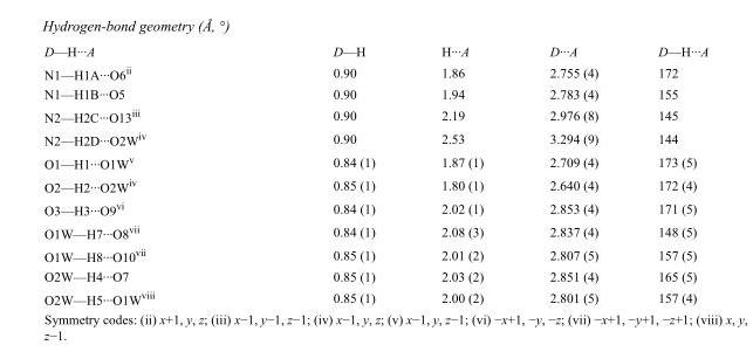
<table><tbody><tr><td>D—H···A</td><td>D—H</td><td>H···A</td><td>D···A</td><td>D—H···A</td></tr><tr><td>N1—H1A···O6<sup>ii</sup></td><td>0.90</td><td>1.86</td><td>2.755 (4)</td><td>172</td></tr><tr><td>N1—H1B···O5</td><td>0.90</td><td>1.94</td><td>2.783 (4)</td><td>155</td></tr><tr><td>N2—H2C···O13<sup>iii</sup></td><td>0.90</td><td>2.19</td><td>2.976 (8)</td><td>145</td></tr><tr><td>N2—H2D···O2W<sup>iv</sup></td><td>0.90</td><td>2.53</td><td>3.294 (9)</td><td>144</td></tr><tr><td>O1—H1···O1W<sup>v</sup></td><td>0.84 (1)</td><td>1.87 (1)</td><td>2.709 (4)</td><td>173 (5)</td></tr><tr><td>O2—H2···O2W<sup>iv</sup></td><td>0.85 (1)</td><td>1.80 (1)</td><td>2.640 (4)</td><td>172 (4)</td></tr><tr><td>O3—H3···O9<sup>vi</sup></td><td>0.84 (1)</td><td>2.02 (1)</td><td>2.853 (4)</td><td>171 (5)</td></tr><tr><td>O1W—H7···O8<sup>vii</sup></td><td>0.84 (1)</td><td>2.08 (3)</td><td>2.837 (4)</td><td>148 (5)</td></tr><tr><td>O1W—H8···O10<sup>vii</sup></td><td>0.85 (1)</td><td>2.01 (2)</td><td>2.807 (5)</td><td>157 (5)</td></tr><tr><td>O2W—H4···O7</td><td>0.85 (1)</td><td>2.03 (2)</td><td>2.851 (4)</td><td>165 (5)</td></tr><tr><td>O2W—H5···O1W<sup>viii</sup></td><td>0.85 (1)</td><td>2.00 (2)</td><td>2.801 (5)</td><td>157 (4)</td></tr></tbody></table>